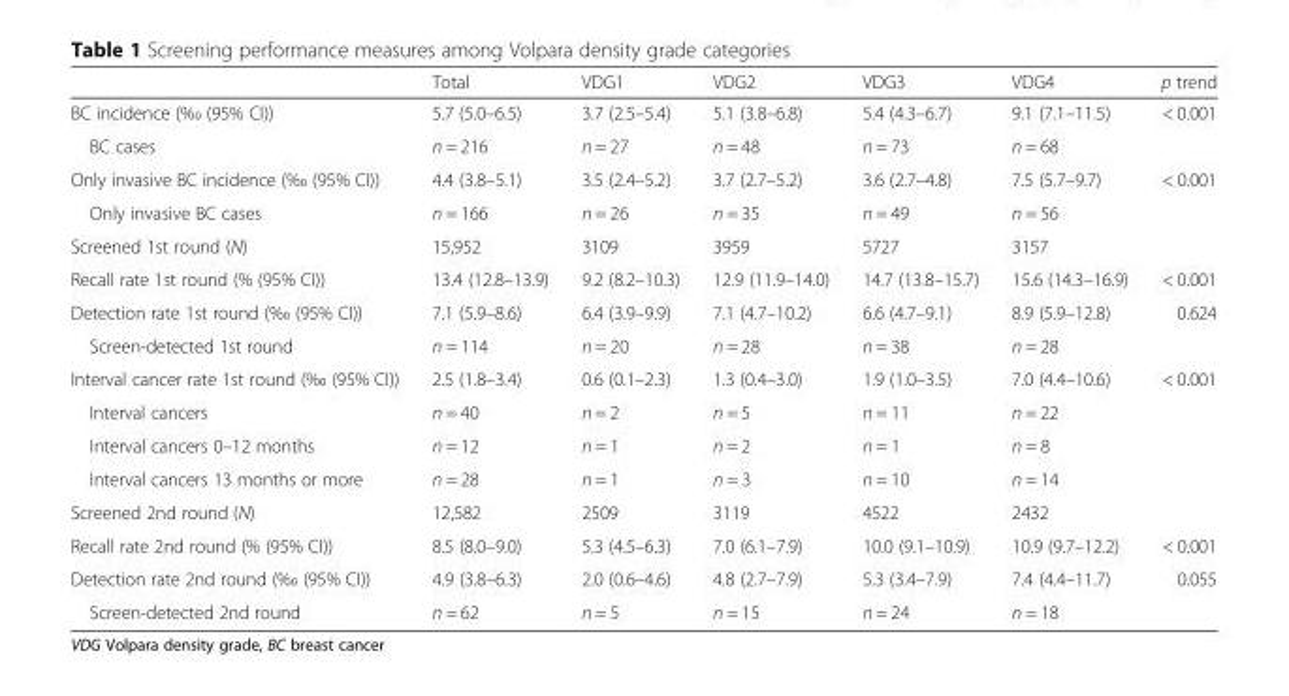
<table><thead><tr><td></td><td>Total</td><td>VDG1</td><td>VDG2</td><td>VDG3</td><td>VDG4</td><td>p trend</td></tr></thead><tbody><tr><td>BC incidence (‰ (95% CI))</td><td>5.7 (5.0–6.5)</td><td>3.7 (2.5–5.4)</td><td>5.1 (3.8–6.8)</td><td>5.4 (4.3–6.7)</td><td>9.1 (7.1–11.5)</td><td>&lt; 0.001</td></tr><tr><td>BC cases</td><td>n = 216</td><td>n = 27</td><td>n = 48</td><td>n = 73</td><td>n = 68</td><td></td></tr><tr><td>Only invasive BC incidence (‰ (95% CI))</td><td>4.4 (3.8–5.1)</td><td>3.5 (2.4–5.2)</td><td>3.7 (2.7–5.2)</td><td>3.6 (2.7–4.8)</td><td>7.5 (5.7–9.7)</td><td>&lt; 0.001</td></tr><tr><td>Only invasive BC cases</td><td>n = 166</td><td>n = 26</td><td>n = 35</td><td>n = 49</td><td>n = 56</td><td></td></tr><tr><td>Screened 1st round (N)</td><td>15,952</td><td>3109</td><td>3959</td><td>5727</td><td>3157</td><td></td></tr><tr><td>Recall rate 1st round (% (95% CI))</td><td>13.4 (12.8–13.9)</td><td>9.2 (8.2–10.3)</td><td>12.9 (11.9–14.0)</td><td>14.7 (13.8–15.7)</td><td>15.6 (14.3–16.9)</td><td>&lt; 0.001</td></tr><tr><td>Detection rate 1st round (‰ (95% CI))</td><td>7.1 (5.9–8.6)</td><td>6.4 (3.9–9.9)</td><td>7.1 (4.7–10.2)</td><td>6.6 (4.7–9.1)</td><td>8.9 (5.9–12.8)</td><td>0.624</td></tr><tr><td>Screen-detected 1st round</td><td>n = 114</td><td>n = 20</td><td>n = 28</td><td>n = 38</td><td>n = 28</td><td></td></tr><tr><td>Interval cancer rate 1st round (‰ (95% CI))</td><td>2.5 (1.8–3.4)</td><td>0.6 (0.1–2.3)</td><td>1.3 (0.4–3.0)</td><td>1.9 (1.0–3.5)</td><td>7.0 (4.4–10.6)</td><td>&lt; 0.001</td></tr><tr><td>Interval cancers</td><td>n = 40</td><td>n = 2</td><td>n = 5</td><td>n = 11</td><td>n = 22</td><td></td></tr><tr><td>Interval cancers 0–12 months</td><td>n = 12</td><td>n = 1</td><td>n = 2</td><td>n = 1</td><td>n = 8</td><td></td></tr><tr><td>Interval cancers 13 months or more</td><td>n = 28</td><td>n = 1</td><td>n = 3</td><td>n = 10</td><td>n = 14</td><td></td></tr><tr><td>Screened 2nd round (N)</td><td>12,582</td><td>2509</td><td>3119</td><td>4522</td><td>2432</td><td></td></tr><tr><td>Recall rate 2nd round (% (95% CI))</td><td>8.5 (8.0–9.0)</td><td>5.3 (4.5–6.3)</td><td>7.0 (6.1–7.9)</td><td>10.0 (9.1–10.9)</td><td>10.9 (9.7–12.2)</td><td>&lt; 0.001</td></tr><tr><td>Detection rate 2nd round (‰ (95% CI))</td><td>4.9 (3.8–6.3)</td><td>2.0 (0.6–4.6)</td><td>4.8 (2.7–7.9)</td><td>5.3 (3.4–7.9)</td><td>7.4 (4.4–11.7)</td><td>0.055</td></tr><tr><td>Screen-detected 2nd round</td><td>n = 62</td><td>n = 5</td><td>n = 15</td><td>n = 24</td><td>n = 18</td><td></td></tr></tbody></table>